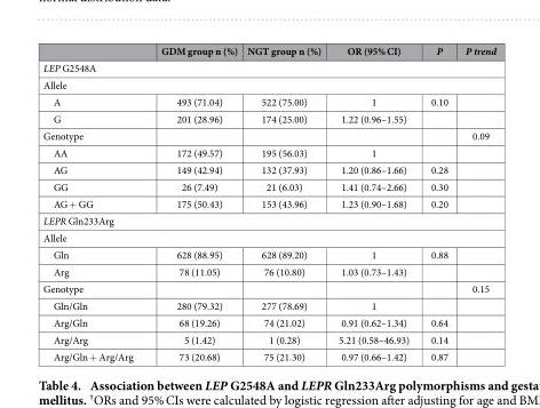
<table><thead><tr><td></td><td>GDM group n (%)</td><td>NGT group n (%)</td><td>OR (95% CI)</td><td>P</td><td>P trend</td></tr></thead><tbody><tr><td colspan="6">LEP G2548A</td></tr><tr><td colspan="6">Allele</td></tr><tr><td>A</td><td>493 (71.04)</td><td>522 (75.00)</td><td>1</td><td>0.10</td><td></td></tr><tr><td>G</td><td>201 (28.96)</td><td>174 (25.00)</td><td>1.22 (0.96–1.55)</td><td></td><td></td></tr><tr><td>Genotype</td><td></td><td></td><td></td><td></td><td>0.09</td></tr><tr><td>AA</td><td>172 (49.57)</td><td>195 (56.03)</td><td>1</td><td></td><td></td></tr><tr><td>AG</td><td>149 (42.94)</td><td>132 (37.93)</td><td>1.20 (0.86–1.66)</td><td>0.28</td><td></td></tr><tr><td>GG</td><td>26 (7.49)</td><td>21 (6.03)</td><td>1.41 (0.74–2.66)</td><td>0.30</td><td></td></tr><tr><td>AG + GG</td><td>175 (50.43)</td><td>153 (43.96)</td><td>1.23 (0.90–1.68)</td><td>0.20</td><td></td></tr><tr><td colspan="6">LEPR Gln233Arg</td></tr><tr><td colspan="6">Allele</td></tr><tr><td>Gln</td><td>628 (88.95)</td><td>628 (89.20)</td><td>1</td><td>0.88</td><td></td></tr><tr><td>Arg</td><td>78 (11.05)</td><td>76 (10.80)</td><td>1.03 (0.73–1.43)</td><td></td><td></td></tr><tr><td>Genotype</td><td></td><td></td><td></td><td></td><td>0.15</td></tr><tr><td>Gln/Gln</td><td>280 (79.32)</td><td>277 (78.69)</td><td>1</td><td></td><td></td></tr><tr><td>Arg/Gln</td><td>68 (19.26)</td><td>74 (21.02)</td><td>0.91 (0.62–1.34)</td><td>0.64</td><td></td></tr><tr><td>Arg/Arg</td><td>5 (1.42)</td><td>1 (0.28)</td><td>5.21 (0.58–46.93)</td><td>0.14</td><td></td></tr><tr><td>Arg/Gln + Arg/Arg</td><td>73 (20.68)</td><td>75 (21.30)</td><td>0.97 (0.66–1.42)</td><td>0.87</td><td></td></tr></tbody></table>